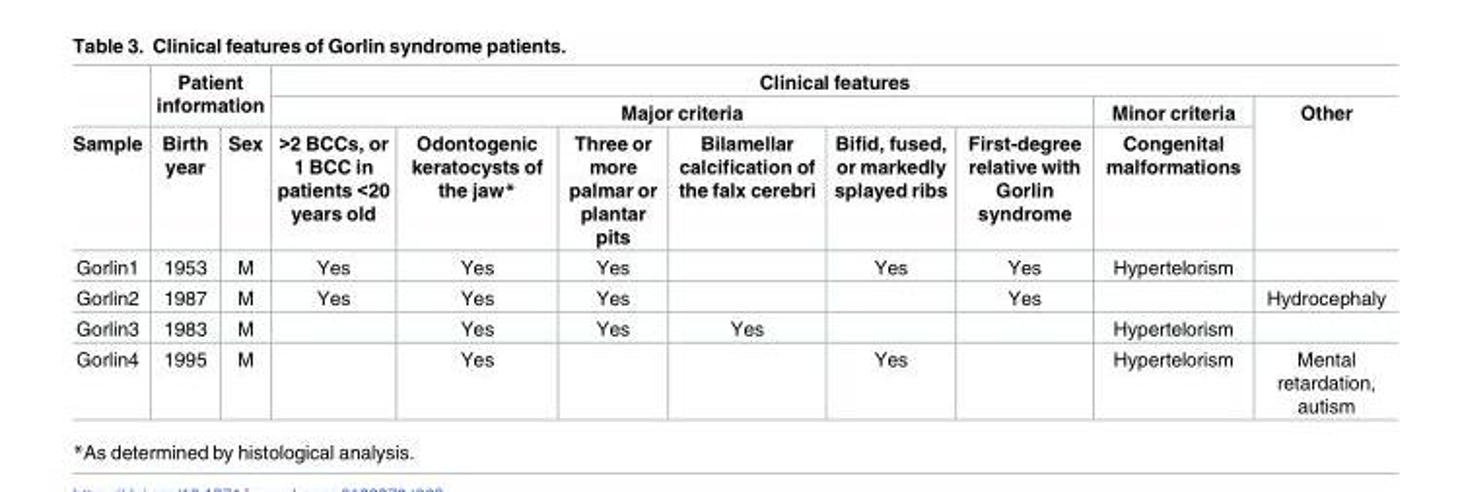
<table><thead><tr><td rowspan="3">Sample</td><td rowspan="2" colspan="2">Patient information</td><td colspan="8">Clinical features</td></tr><tr><td colspan="6">Major criteria</td><td rowspan="2">Minor criteria Congenital malformations</td><td rowspan="2">Other</td></tr><tr><td>Birth year</td><td>Sex</td><td>&gt;2 BCCs, or 1 BCC in patients &lt;20 years old</td><td>Odontogenic keratocysts of the jaw*</td><td>Three or more palmar or plantar pits</td><td>Bilamellar calcification of the falx cerebri</td><td>Bifid, fused, or markedly splayed ribs</td><td>First-degree relative with Gorlin syndrome</td></tr></thead><tbody><tr><td>Gorlin1</td><td>1953</td><td>M</td><td>Yes</td><td>Yes</td><td>Yes</td><td></td><td>Yes</td><td>Yes</td><td>Hypertelorism</td><td></td></tr><tr><td>Gorlin2</td><td>1987</td><td>M</td><td>Yes</td><td>Yes</td><td>Yes</td><td></td><td></td><td>Yes</td><td></td><td>Hydrocephaly</td></tr><tr><td>Gorlin3</td><td>1983</td><td>M</td><td></td><td>Yes</td><td>Yes</td><td>Yes</td><td></td><td></td><td>Hypertelorism</td><td></td></tr><tr><td>Gorlin4</td><td>1995</td><td>M</td><td></td><td>Yes</td><td></td><td></td><td>Yes</td><td></td><td>Hypertelorism</td><td>Mental retardation, autism</td></tr></tbody></table>